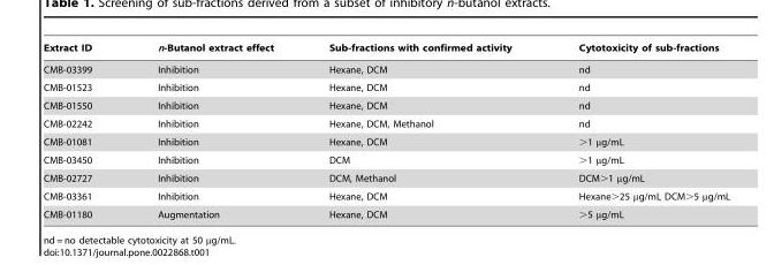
<table><thead><tr><td>Extract ID</td><td>n-Butanol extract effect</td><td>Sub-fractions with confirmed activity</td><td>Cytotoxicity of sub-fractions</td></tr></thead><tbody><tr><td>CMB-03399</td><td>Inhibition</td><td>Hexane, DCM</td><td>nd</td></tr><tr><td>CMB-01523</td><td>Inhibition</td><td>Hexane, DCM</td><td>nd</td></tr><tr><td>CMB-01550</td><td>Inhibition</td><td>Hexane, DCM</td><td>nd</td></tr><tr><td>CMB-02242</td><td>Inhibition</td><td>Hexane, DCM, Methanol</td><td>nd</td></tr><tr><td>CMB-01081</td><td>Inhibition</td><td>Hexane, DCM</td><td>&gt;1 µg/mL</td></tr><tr><td>CMB-03450</td><td>Inhibition</td><td>DCM</td><td>&gt;1 µg/mL</td></tr><tr><td>CMB-02727</td><td>Inhibition</td><td>DCM, Methanol</td><td>DCM&gt;1 µg/mL</td></tr><tr><td>CMB-03361</td><td>Inhibition</td><td>Hexane, DCM</td><td>Hexane&gt;25 µg/mL DCM&gt;5 µg/mL</td></tr><tr><td>CMB-01180</td><td>Augmentation</td><td>Hexane, DCM</td><td>&gt;5 µg/mL</td></tr></tbody></table>